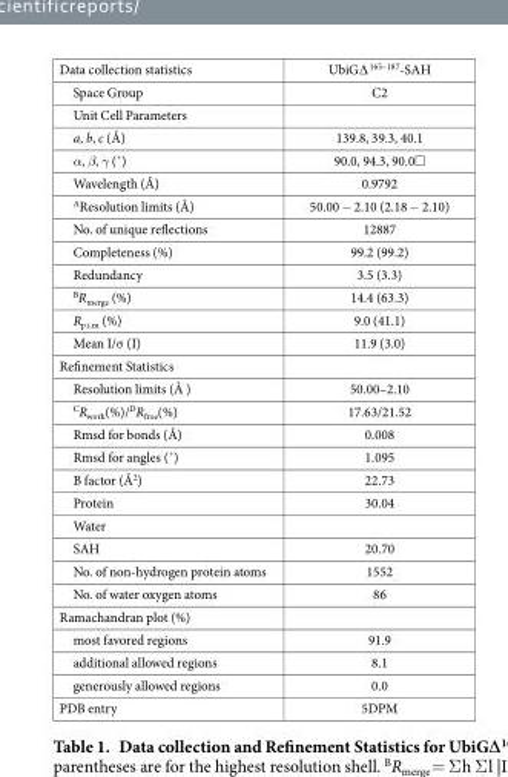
<table><tbody><tr><td>Data collection statistics</td><td>UbiG∆ <sup>165–187</sup>-SAH</td></tr><tr><td>Space Group</td><td>C2</td></tr><tr><td colspan="2">Unit Cell Parameters</td></tr><tr><td>a, b, c (Å)</td><td>139.8, 39.3, 40.1</td></tr><tr><td>α, β, γ (˚)</td><td>90.0, 94.3, 90.0◻</td></tr><tr><td>Wavelength (Å)</td><td>0.9792</td></tr><tr><td><sup>A</sup>Resolution limits (Å)</td><td>50.00 − 2.10 (2.18 − 2.10)</td></tr><tr><td>No. of unique reflections</td><td>12887</td></tr><tr><td>Completeness (%)</td><td>99.2 (99.2)</td></tr><tr><td>Redundancy</td><td>3.5 (3.3)</td></tr><tr><td>BR<sub>merge</sub> (%)</td><td>14.4 (63.3)</td></tr><tr><td>R<sub>p.i.m</sub> (%)</td><td>9.0 (41.1)</td></tr><tr><td>Mean I/σ (I)</td><td>11.9 (3.0)</td></tr><tr><td colspan="2">Refinement Statistics</td></tr><tr><td>Resolution limits (Å )</td><td>50.00–2.10</td></tr><tr><td>CR<sub>work</sub>(%)/DR<sub>free</sub>(%)</td><td>17.63/21.52</td></tr><tr><td>Rmsd for bonds (Å)</td><td>0.008</td></tr><tr><td>Rmsd for angles (˚)</td><td>1.095</td></tr><tr><td>B factor (Å<sup>2</sup>)</td><td>22.73</td></tr><tr><td>Protein</td><td>30.04</td></tr><tr><td colspan="2">Water</td></tr><tr><td>SAH</td><td>20.70</td></tr><tr><td>No. of non-hydrogen protein atoms</td><td>1552</td></tr><tr><td>No. of water oxygen atoms</td><td>86</td></tr><tr><td colspan="2">Ramachandran plot (%)</td></tr><tr><td>most favored regions</td><td>91.9</td></tr><tr><td>additional allowed regions</td><td>8.1</td></tr><tr><td>generously allowed regions</td><td>0.0</td></tr><tr><td>PDB entry</td><td>5DPM</td></tr></tbody></table>